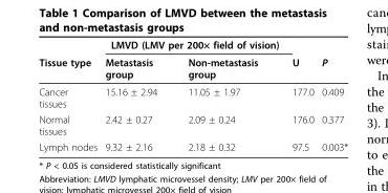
<table><thead><tr><td rowspan="2">Tissue type</td><td colspan="2">LMVD (LMV per 200× field of vision)</td><td rowspan="2">U</td><td rowspan="2">P</td></tr><tr><td>Metastasis group</td><td>Non-metastasis group</td></tr></thead><tbody><tr><td>Cancer tissues</td><td>15.16 ± 2.94</td><td>11.05 ± 1.97</td><td>177.0</td><td>0.409</td></tr><tr><td>Normal tissues</td><td>2.42 ± 0.27</td><td>2.09 ± 0.24</td><td>176.0</td><td>0.377</td></tr><tr><td>Lymph nodes</td><td>9.32 ± 2.16</td><td>2.18 ± 0.32</td><td>97.5</td><td>0.003*</td></tr></tbody></table>